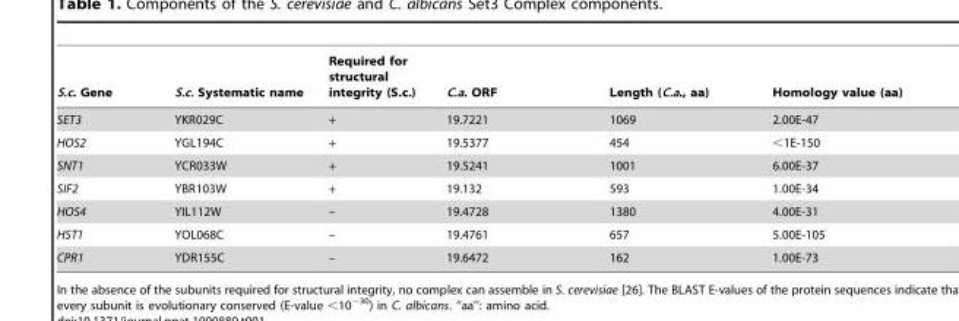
<table><thead><tr><td>S.c. Gene</td><td>S.c. Systematic name</td><td>Required for structural integrity (S.c.)</td><td>C.a. ORF</td><td>Length (C.a., aa)</td><td>Homology value (aa)</td></tr></thead><tbody><tr><td>SET3</td><td>YKR029C</td><td>+</td><td>19.7221</td><td>1069</td><td>2.00E-47</td></tr><tr><td>HOS2</td><td>YGL194C</td><td>+</td><td>19.5377</td><td>454</td><td>&lt;1E-150</td></tr><tr><td>SNT1</td><td>YCR033W</td><td>+</td><td>19.5241</td><td>1001</td><td>6.00E-37</td></tr><tr><td>SIF2</td><td>YBR103W</td><td>+</td><td>19.132</td><td>593</td><td>1.00E-34</td></tr><tr><td>HOS4</td><td>YIL112W</td><td>–</td><td>19.4728</td><td>1380</td><td>4.00E-31</td></tr><tr><td>HST1</td><td>YOL068C</td><td>–</td><td>19.4761</td><td>657</td><td>5.00E-105</td></tr><tr><td>CPR1</td><td>YDR155C</td><td>–</td><td>19.6472</td><td>162</td><td>1.00E-73</td></tr></tbody></table>